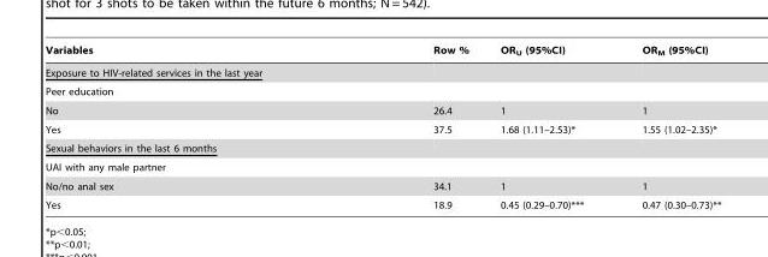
<table><thead><tr><td>Variables</td><td>Row %</td><td>OR<sub>U</sub> (95%CI)</td><td>OR<sub>M</sub> (95%CI)</td></tr></thead><tbody><tr><td colspan="4">Exposure to HIV-related services in the last year</td></tr><tr><td colspan="4">Peer education</td></tr><tr><td>No</td><td>26.4</td><td>1</td><td>1</td></tr><tr><td>Yes</td><td>37.5</td><td>1.68 (1.11–2.53)*</td><td>1.55 (1.02–2.35)*</td></tr><tr><td colspan="4">Sexual behaviors in the last 6 months</td></tr><tr><td colspan="4">UAI with any male partner</td></tr><tr><td>No/no anal sex</td><td>34.1</td><td>1</td><td>1</td></tr><tr><td>Yes</td><td>18.9</td><td>0.45 (0.29–0.70)***</td><td>0.47 (0.30–0.73)**</td></tr></tbody></table>